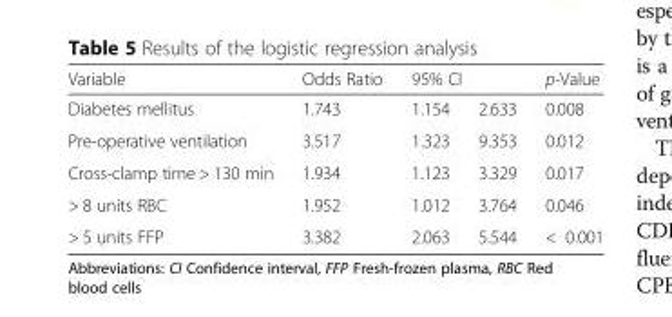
<table><thead><tr><td rowspan="2">Variable Diabetes mellitus</td><td rowspan="2">Odds Ratio 1.743</td><td colspan="2">95% CI</td><td rowspan="2">p-Value 0.008</td></tr><tr><td>1.154</td><td>2.633</td></tr></thead><tbody><tr><td>Pre-operative ventilation</td><td>3.517</td><td>1.323</td><td>9.353</td><td>0.012</td></tr><tr><td>Cross-clamp time &gt; 130 min</td><td>1.934</td><td>1.123</td><td>3.329</td><td>0.017</td></tr><tr><td>&gt; 8 units RBC</td><td>1.952</td><td>1.012</td><td>3.764</td><td>0.046</td></tr><tr><td>&gt; 5 units FFP</td><td>3.382</td><td>2.063</td><td>5.544</td><td>&lt; 0.001</td></tr></tbody></table>